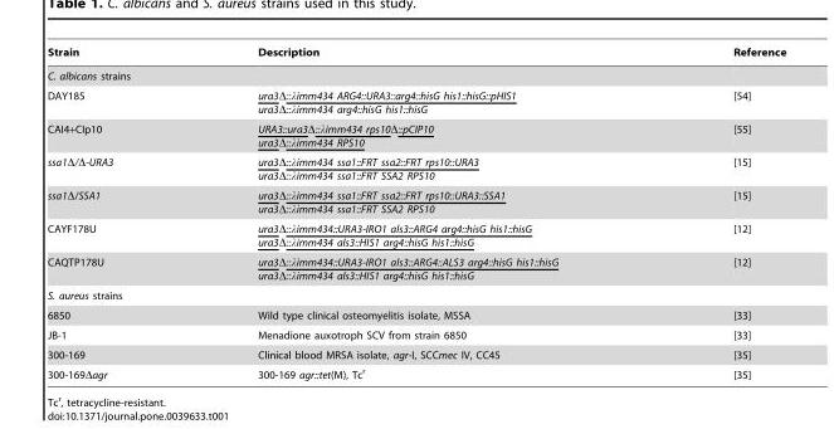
<table><thead><tr><td>Strain</td><td>Description</td><td>Reference</td></tr></thead><tbody><tr><td colspan="3">C. albicans strains</td></tr><tr><td>DAY185</td><td>ura3Δ::λimm434 ARG4::URA3::arg4::hisG his1::hisG::pHIS1 ura3Δ::λimm434 arg4::hisG his1::hisG</td><td>[54]</td></tr><tr><td>CAI4+CIp10</td><td>URA3::ura3Δ::λimm434 rps10Δ::pCIP10 ura3Δ::λimm434 RPS10</td><td>[55]</td></tr><tr><td>ssa1Δ/Δ-URA3</td><td>ura3Δ::λimm434 ssa1::FRT ssa2::FRT rps10::URA3 ura3Δ::λimm434 ssa1::FRT SSA2 RPS10</td><td>[15]</td></tr><tr><td>ssa1Δ/SSA1</td><td>ura3Δ::λimm434 ssa1::FRT ssa2::FRT rps10::URA3::SSA1 ura3Δ::λimm434 ssa1::FRT SSA2 RPS10</td><td>[15]</td></tr><tr><td>CAYF178U</td><td>ura3Δ::λimm434::URA3-IRO1 als3::ARG4 arg4::hisG his1::hisG ura3Δ::λimm434 als3::HIS1 arg4::hisG his1::hisG</td><td>[12]</td></tr><tr><td>CAQTP178U</td><td>ura3Δ::λimm434::URA3-IRO1 als3::ARG4::ALS3 arg4::hisG his1::hisG ura3Δ::λimm434 als3::HIS1 arg4::hisG his1::hisG</td><td>[12]</td></tr><tr><td colspan="3">S. aureus strains</td></tr><tr><td>6850</td><td>Wild type clinical osteomyelitis isolate, MSSA</td><td>[33]</td></tr><tr><td>JB-1</td><td>Menadione auxotroph SCV from strain 6850</td><td>[33]</td></tr><tr><td>300-169</td><td>Clinical blood MRSA isolate, agr-I, SCCmec IV, CC45</td><td>[35]</td></tr><tr><td>300-169Δagr</td><td>300-169 agr::tet(M), Tc<sup>r</sup></td><td>[35]</td></tr></tbody></table>